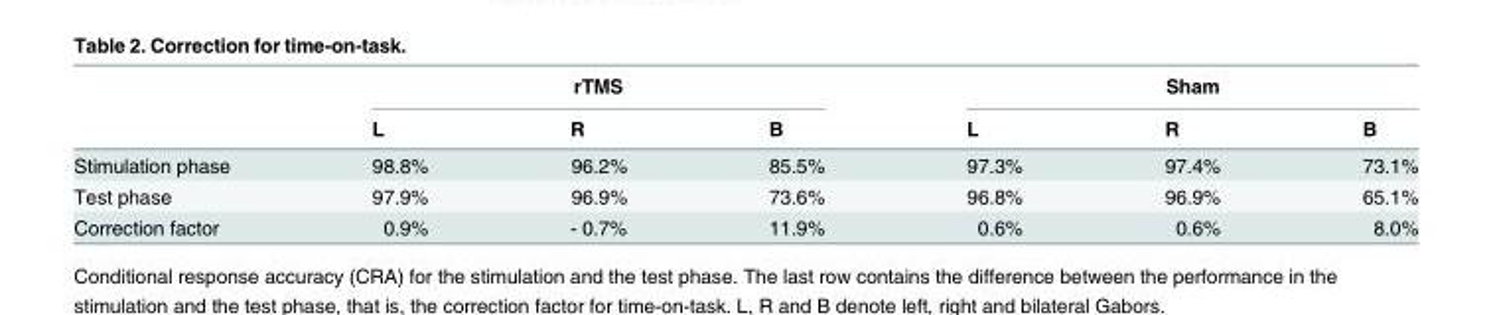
<table><thead><tr><td rowspan="2"></td><td colspan="3">rTMS</td><td colspan="3">Sham</td></tr><tr><td>L</td><td>R</td><td>B</td><td>L</td><td>R</td><td>B</td></tr></thead><tbody><tr><td>Stimulation phase</td><td>98.8%</td><td>96.2%</td><td>85.5%</td><td>97.3%</td><td>97.4%</td><td>73.1%</td></tr><tr><td>Test phase</td><td>97.9%</td><td>96.9%</td><td>73.6%</td><td>96.8%</td><td>96.9%</td><td>65.1%</td></tr><tr><td>Correction factor</td><td>0.9%</td><td>- 0.7%</td><td>11.9%</td><td>0.6%</td><td>0.6%</td><td>8.0%</td></tr></tbody></table>